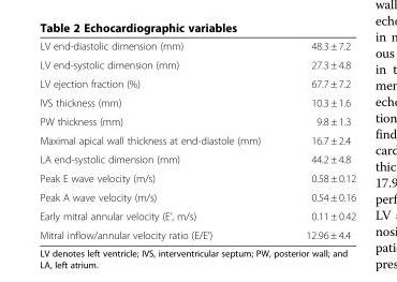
<table><tbody><tr><td>LV end-diastolic dimension (mm)</td><td>48.3 ± 7.2</td></tr><tr><td>LV end-systolic dimension (mm)</td><td>27.3 ± 4.8</td></tr><tr><td>LV ejection fraction (%)</td><td>67.7 ± 7.2</td></tr><tr><td>IVS thickness (mm)</td><td>10.3 ± 1.6</td></tr><tr><td>PW thickness (mm)</td><td>9.8 ± 1.3</td></tr><tr><td>Maximal apical wall thickness at end-diastole (mm)</td><td>16.7 ± 2.4</td></tr><tr><td>LA end-systolic dimension (mm)</td><td>44.2 ± 4.8</td></tr><tr><td>Peak E wave velocity (m/s)</td><td>0.58 ± 0.12</td></tr><tr><td>Peak A wave velocity (m/s)</td><td>0.54 ± 0.16</td></tr><tr><td>Early mitral annular velocity (E’, m/s)</td><td>0.11 ± 0.42</td></tr><tr><td>Mitral inflow/annular velocity ratio (E/E’)</td><td>12.96 ± 4.4</td></tr></tbody></table>